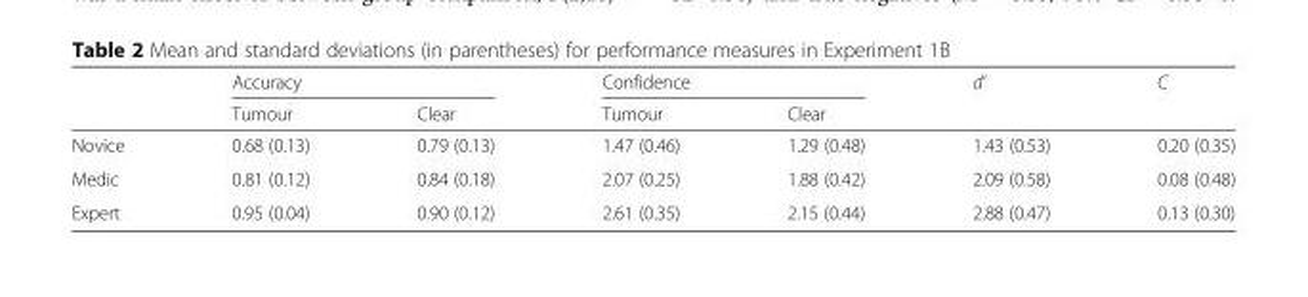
<table><thead><tr><td rowspan="2"></td><td colspan="2">Accuracy</td><td colspan="2">Confidence</td><td rowspan="2">d’</td><td rowspan="2">C</td></tr><tr><td>Tumour</td><td>Clear</td><td>Tumour</td><td>Clear</td></tr></thead><tbody><tr><td>Novice</td><td>0.68 (0.13)</td><td>0.79 (0.13)</td><td>1.47 (0.46)</td><td>1.29 (0.48)</td><td>1.43 (0.53)</td><td>0.20 (0.35)</td></tr><tr><td>Medic</td><td>0.81 (0.12)</td><td>0.84 (0.18)</td><td>2.07 (0.25)</td><td>1.88 (0.42)</td><td>2.09 (0.58)</td><td>0.08 (0.48)</td></tr><tr><td>Expert</td><td>0.95 (0.04)</td><td>0.90 (0.12)</td><td>2.61 (0.35)</td><td>2.15 (0.44)</td><td>2.88 (0.47)</td><td>0.13 (0.30)</td></tr></tbody></table>